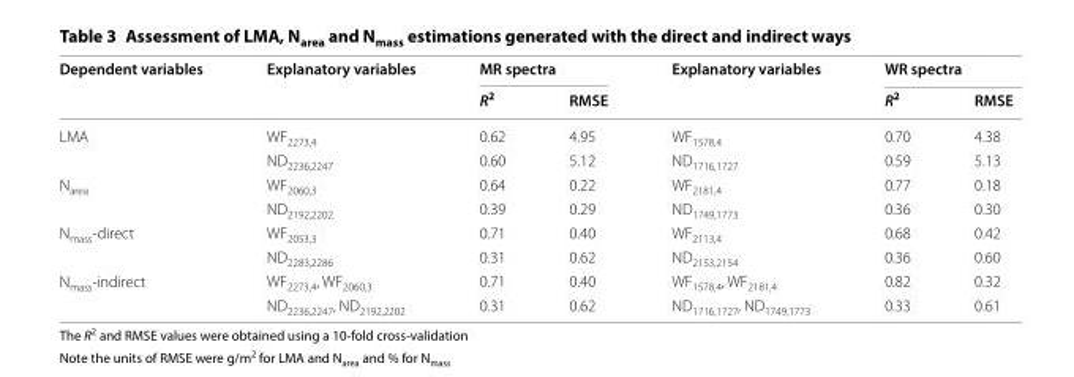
<table><thead><tr><td rowspan="2">Dependent variables</td><td rowspan="2">Explanatory variables</td><td colspan="2">MR spectra</td><td rowspan="2">Explanatory variables</td><td colspan="2">WR spectra</td></tr><tr><td>R<sup>2</sup></td><td>RMSE</td><td>R<sup>2</sup></td><td>RMSE</td></tr></thead><tbody><tr><td rowspan="2">LMA</td><td>WF<sub>2273,4</sub></td><td>0.62</td><td>4.95</td><td>WF<sub>1578,4</sub></td><td>0.70</td><td>4.38</td></tr><tr><td>ND<sub>2236,2247</sub></td><td>0.60</td><td>5.12</td><td>ND<sub>1716,1727</sub></td><td>0.59</td><td>5.13</td></tr><tr><td rowspan="2">N<sub>area</sub></td><td>WF<sub>2060,3</sub></td><td>0.64</td><td>0.22</td><td>WF<sub>2181,4</sub></td><td>0.77</td><td>0.18</td></tr><tr><td>ND<sub>2192,2202</sub></td><td>0.39</td><td>0.29</td><td>ND<sub>1749,1773</sub></td><td>0.36</td><td>0.30</td></tr><tr><td rowspan="2">N<sub>mass</sub>-direct</td><td>WF<sub>2053,3</sub></td><td>0.71</td><td>0.40</td><td>WF<sub>2113,4</sub></td><td>0.68</td><td>0.42</td></tr><tr><td>ND<sub>2283,2286</sub></td><td>0.31</td><td>0.62</td><td>ND<sub>2153,2154</sub></td><td>0.36</td><td>0.60</td></tr><tr><td rowspan="2">N<sub>mass</sub>-indirect</td><td>WF<sub>2273,4</sub>, WF<sub>2060,3</sub></td><td>0.71</td><td>0.40</td><td>WF<sub>1578,4</sub>, WF<sub>2181,4</sub></td><td>0.82</td><td>0.32</td></tr><tr><td>ND<sub>2236,2247</sub>, ND<sub>2192,2202</sub></td><td>0.31</td><td>0.62</td><td>ND<sub>1716,1727</sub>, ND<sub>1749,1773</sub></td><td>0.33</td><td>0.61</td></tr></tbody></table>